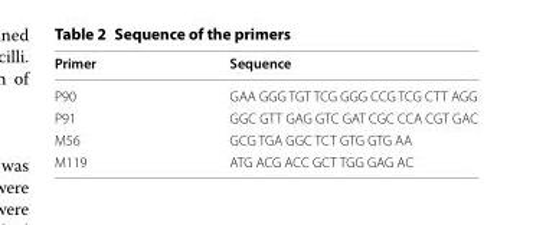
<table><thead><tr><td>Primer</td><td>Sequence</td></tr></thead><tbody><tr><td>P90</td><td>GAA GGG TGT TCG GGG CCG TCG CTT AGG</td></tr><tr><td>P91</td><td>GGC GTT GAG GTC GAT CGC CCA CGT GAC</td></tr><tr><td>M56</td><td>GCG TGA GGC TCT GTG GTG AA</td></tr><tr><td>M119</td><td>ATG ACG ACC GCT TGG GAG AC</td></tr></tbody></table>